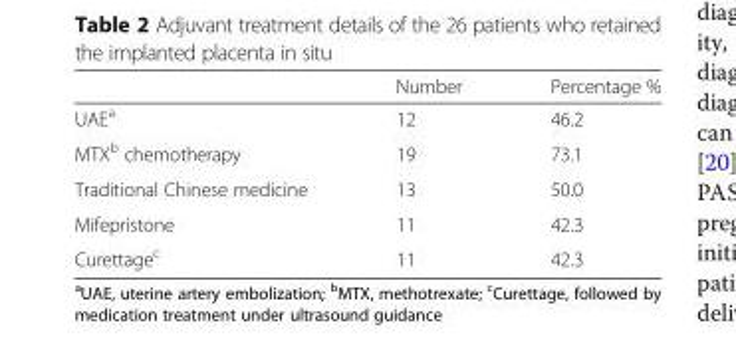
<table><thead><tr><td></td><td>Number</td><td>Percentage %</td></tr></thead><tbody><tr><td>UAE<sup>a</sup></td><td>12</td><td>46.2</td></tr><tr><td>MTX<sup>b</sup> chemotherapy</td><td>19</td><td>73.1</td></tr><tr><td>Traditional Chinese medicine</td><td>13</td><td>50.0</td></tr><tr><td>Mifepristone</td><td>11</td><td>42.3</td></tr><tr><td>Curettage<sup>c</sup></td><td>11</td><td>42.3</td></tr></tbody></table>